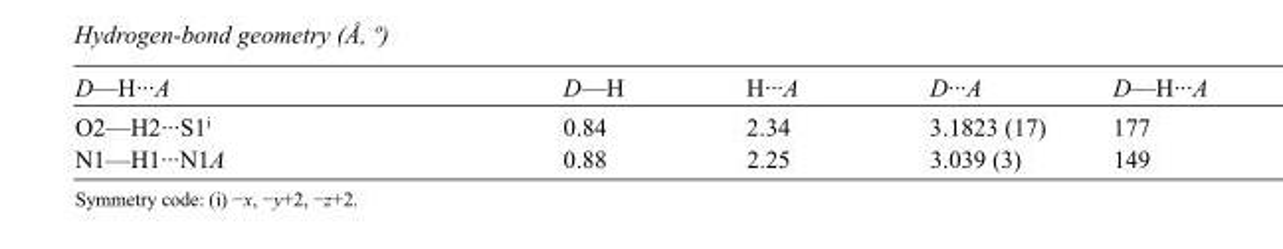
<table><tbody><tr><td>D—H···A</td><td>D—H</td><td>H···A</td><td>D···A</td><td>D—H···A</td></tr><tr><td>O2—H2···S1<sup>i</sup></td><td>0.84</td><td>2.34</td><td>3.1823 (17)</td><td>177</td></tr><tr><td>N1—H1···N1A</td><td>0.88</td><td>2.25</td><td>3.039 (3)</td><td>149</td></tr></tbody></table>